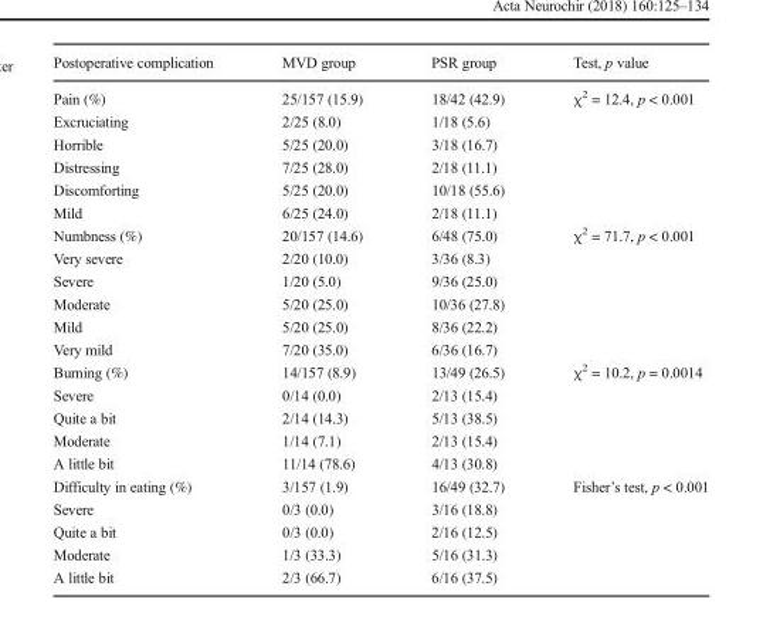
<table><thead><tr><td>Postoperative complication</td><td>MVD group</td><td>PSR group</td><td>Test, p value</td></tr></thead><tbody><tr><td>Pain (%)</td><td>25/157 (15.9)</td><td>18/42 (42.9)</td><td>χ<sup>2</sup> = 12.4, p &lt; 0.001</td></tr><tr><td>Excruciating</td><td>2/25 (8.0)</td><td>1/18 (5.6)</td><td></td></tr><tr><td>Horrible</td><td>5/25 (20.0)</td><td>3/18 (16.7)</td><td></td></tr><tr><td>Distressing</td><td>7/25 (28.0)</td><td>2/18 (11.1)</td><td></td></tr><tr><td>Discomforting</td><td>5/25 (20.0)</td><td>10/18 (55.6)</td><td></td></tr><tr><td>Mild</td><td>6/25 (24.0)</td><td>2/18 (11.1)</td><td></td></tr><tr><td>Numbness (%)</td><td>20/157 (14.6)</td><td>6/48 (75.0)</td><td>χ<sup>2</sup> = 71.7, p &lt; 0.001</td></tr><tr><td>Very severe</td><td>2/20 (10.0)</td><td>3/36 (8.3)</td><td></td></tr><tr><td>Severe</td><td>1/20 (5.0)</td><td>9/36 (25.0)</td><td></td></tr><tr><td>Moderate</td><td>5/20 (25.0)</td><td>10/36 (27.8)</td><td></td></tr><tr><td>Mild</td><td>5/20 (25.0)</td><td>8/36 (22.2)</td><td></td></tr><tr><td>Very mild</td><td>7/20 (35.0)</td><td>6/36 (16.7)</td><td></td></tr><tr><td>Burning (%)</td><td>14/157 (8.9)</td><td>13/49 (26.5)</td><td>χ<sup>2</sup> = 10.2, p = 0.0014</td></tr><tr><td>Severe</td><td>0/14 (0.0)</td><td>2/13 (15.4)</td><td></td></tr><tr><td>Quite a bit</td><td>2/14 (14.3)</td><td>5/13 (38.5)</td><td></td></tr><tr><td>Moderate</td><td>1/14 (7.1)</td><td>2/13 (15.4)</td><td></td></tr><tr><td>A little bit</td><td>11/14 (78.6)</td><td>4/13 (30.8)</td><td></td></tr><tr><td>Difficulty in eating (%)</td><td>3/157 (1.9)</td><td>16/49 (32.7)</td><td>Fisher’s test, p &lt; 0.001</td></tr><tr><td>Severe</td><td>0/3 (0.0)</td><td>3/16 (18.8)</td><td></td></tr><tr><td>Quite a bit</td><td>0/3 (0.0)</td><td>2/16 (12.5)</td><td></td></tr><tr><td>Moderate</td><td>1/3 (33.3)</td><td>5/16 (31.3)</td><td></td></tr><tr><td>A little bit</td><td>2/3 (66.7)</td><td>6/16 (37.5)</td><td></td></tr></tbody></table>